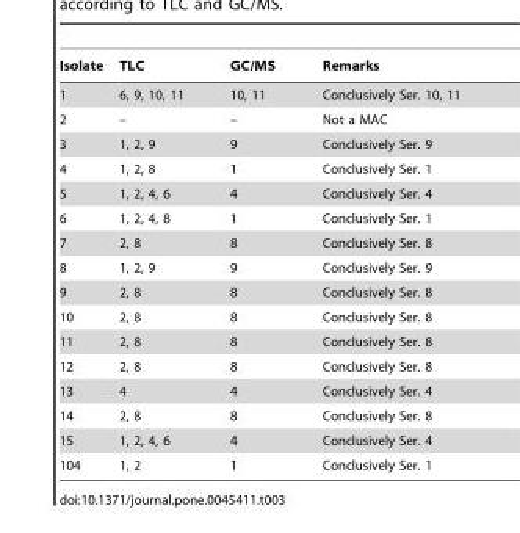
<table><thead><tr><td>Isolate</td><td>TLC</td><td>GC/MS</td><td>Remarks</td></tr></thead><tbody><tr><td>1</td><td>6, 9, 10, 11</td><td>10, 11</td><td>Conclusively Ser. 10, 11</td></tr><tr><td>2</td><td>–</td><td>–</td><td>Not a MAC</td></tr><tr><td>3</td><td>1, 2, 9</td><td>9</td><td>Conclusively Ser. 9</td></tr><tr><td>4</td><td>1, 2, 8</td><td>1</td><td>Conclusively Ser. 1</td></tr><tr><td>5</td><td>1, 2, 4, 6</td><td>4</td><td>Conclusively Ser. 4</td></tr><tr><td>6</td><td>1, 2, 4, 8</td><td>1</td><td>Conclusively Ser. 1</td></tr><tr><td>7</td><td>2, 8</td><td>8</td><td>Conclusively Ser. 8</td></tr><tr><td>8</td><td>1, 2, 9</td><td>9</td><td>Conclusively Ser. 9</td></tr><tr><td>9</td><td>2, 8</td><td>8</td><td>Conclusively Ser. 8</td></tr><tr><td>10</td><td>2, 8</td><td>8</td><td>Conclusively Ser. 8</td></tr><tr><td>11</td><td>2, 8</td><td>8</td><td>Conclusively Ser. 8</td></tr><tr><td>12</td><td>2, 8</td><td>8</td><td>Conclusively Ser. 8</td></tr><tr><td>13</td><td>4</td><td>4</td><td>Conclusively Ser. 4</td></tr><tr><td>14</td><td>2, 8</td><td>8</td><td>Conclusively Ser. 8</td></tr><tr><td>15</td><td>1, 2, 4, 6</td><td>4</td><td>Conclusively Ser. 4</td></tr><tr><td>104</td><td>1, 2</td><td>1</td><td>Conclusively Ser. 1</td></tr></tbody></table>